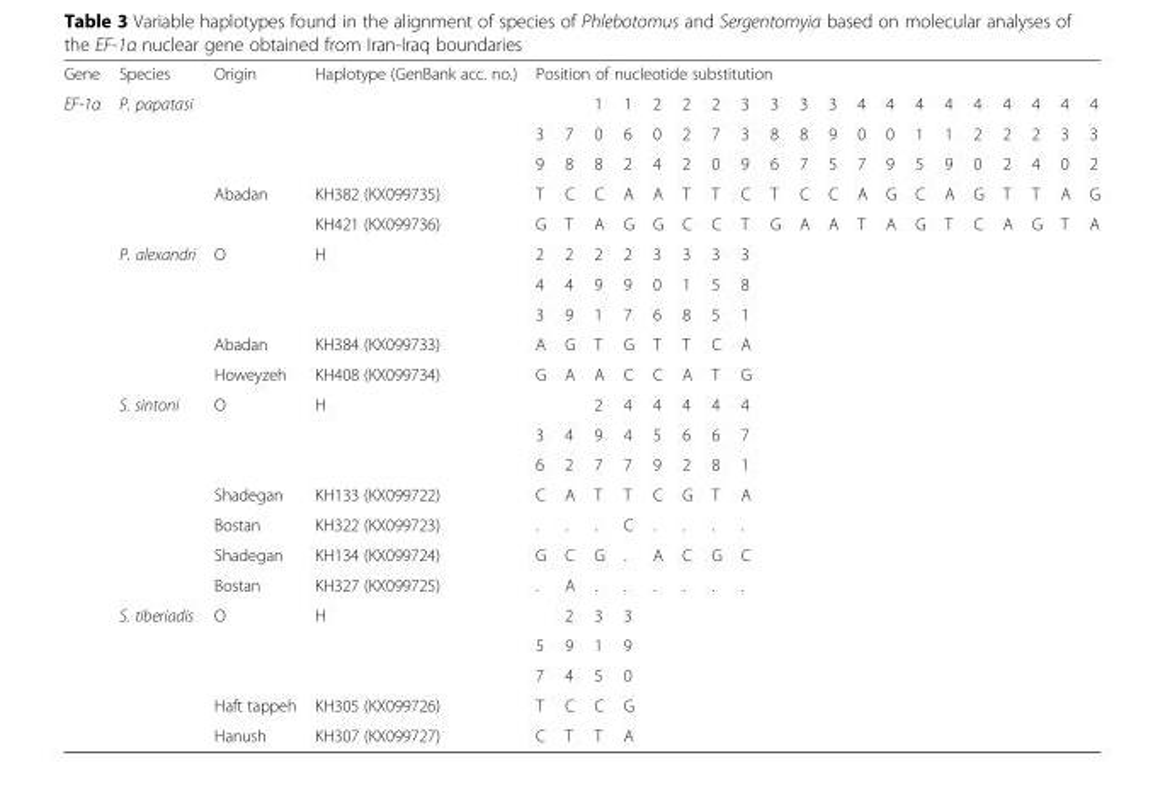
<table><tbody><tr><td>Gene</td><td>Species</td><td rowspan="4">Origin</td><td rowspan="4">Haplotype (GenBank acc. no.)</td><td colspan="20">Position of nucleotide substitution</td></tr><tr><td rowspan="22">EF-1α</td><td rowspan="5">P. papatasi</td><td></td><td></td><td>1</td><td>1</td><td>2</td><td>2</td><td>2</td><td>3</td><td>3</td><td>3</td><td>3</td><td>4</td><td>4</td><td>4</td><td>4</td><td>4</td><td>4</td><td>4</td><td>4</td><td>4</td></tr><tr><td>3</td><td>7</td><td>0</td><td>6</td><td>0</td><td>2</td><td>7</td><td>3</td><td>8</td><td>8</td><td>9</td><td>0</td><td>0</td><td>1</td><td>1</td><td>2</td><td>2</td><td>2</td><td>3</td><td>3</td></tr><tr><td>9</td><td>8</td><td>8</td><td>2</td><td>4</td><td>2</td><td>0</td><td>9</td><td>6</td><td>7</td><td>5</td><td>7</td><td>9</td><td>5</td><td>9</td><td>0</td><td>2</td><td>4</td><td>0</td><td>2</td></tr><tr><td rowspan="2">Abadan</td><td>KH382 (KX099735)</td><td>T</td><td>C</td><td>C</td><td>A</td><td>A</td><td>T</td><td>T</td><td>C</td><td>T</td><td>C</td><td>C</td><td>A</td><td>G</td><td>C</td><td>A</td><td>G</td><td>T</td><td>T</td><td>A</td><td>G</td></tr><tr><td>KH421 (KX099736)</td><td>G</td><td>T</td><td>A</td><td>G</td><td>G</td><td>C</td><td>C</td><td>T</td><td>G</td><td>A</td><td>A</td><td>T</td><td>A</td><td>G</td><td>T</td><td>C</td><td>A</td><td>G</td><td>T</td><td>A</td></tr><tr><td rowspan="5">P. alexandri</td><td rowspan="3">O</td><td rowspan="3">H</td><td>2</td><td>2</td><td>2</td><td>2</td><td>3</td><td>3</td><td>3</td><td>3</td><td></td><td></td><td></td><td></td><td></td><td></td><td></td><td></td><td></td><td></td><td></td><td></td></tr><tr><td>4</td><td>4</td><td>9</td><td>9</td><td>0</td><td>1</td><td>5</td><td>8</td><td></td><td></td><td></td><td></td><td></td><td></td><td></td><td></td><td></td><td></td><td></td><td></td></tr><tr><td>3</td><td>9</td><td>1</td><td>7</td><td>6</td><td>8</td><td>5</td><td>1</td><td></td><td></td><td></td><td></td><td></td><td></td><td></td><td></td><td></td><td></td><td></td><td></td></tr><tr><td>Abadan</td><td>KH384 (KX099733)</td><td>A</td><td>G</td><td>T</td><td>G</td><td>T</td><td>T</td><td>C</td><td>A</td><td></td><td></td><td></td><td></td><td></td><td></td><td></td><td></td><td></td><td></td><td></td><td></td></tr><tr><td>Howeyzeh</td><td>KH408 (KX099734)</td><td>G</td><td>A</td><td>A</td><td>C</td><td>C</td><td>A</td><td>T</td><td>G</td><td></td><td></td><td></td><td></td><td></td><td></td><td></td><td></td><td></td><td></td><td></td><td></td></tr><tr><td rowspan="7">S. sintoni</td><td rowspan="3">O</td><td rowspan="3">H</td><td></td><td></td><td>2</td><td>4</td><td>4</td><td>4</td><td>4</td><td>4</td><td></td><td></td><td></td><td></td><td></td><td></td><td></td><td></td><td></td><td></td><td></td><td></td></tr><tr><td>3</td><td>4</td><td>9</td><td>4</td><td>5</td><td>6</td><td>6</td><td>7</td><td></td><td></td><td></td><td></td><td></td><td></td><td></td><td></td><td></td><td></td><td></td><td></td></tr><tr><td>6</td><td>2</td><td>7</td><td>7</td><td>9</td><td>2</td><td>8</td><td>1</td><td></td><td></td><td></td><td></td><td></td><td></td><td></td><td></td><td></td><td></td><td></td><td></td></tr><tr><td>Shadegan</td><td>KH133 (KX099722)</td><td>C</td><td>A</td><td>T</td><td>T</td><td>C</td><td>G</td><td>T</td><td>A</td><td></td><td></td><td></td><td></td><td></td><td></td><td></td><td></td><td></td><td></td><td></td><td></td></tr><tr><td>Bostan</td><td>KH322 (KX099723)</td><td>.</td><td>.</td><td>.</td><td>C</td><td>.</td><td>.</td><td>.</td><td>.</td><td></td><td></td><td></td><td></td><td></td><td></td><td></td><td></td><td></td><td></td><td></td><td></td></tr><tr><td>Shadegan</td><td>KH134 (KX099724)</td><td>G</td><td>C</td><td>G</td><td>.</td><td>A</td><td>C</td><td>G</td><td>C</td><td></td><td></td><td></td><td></td><td></td><td></td><td></td><td></td><td></td><td></td><td></td><td></td></tr><tr><td>Bostan</td><td>KH327 (KX099725)</td><td>.</td><td>A</td><td>.</td><td>.</td><td>.</td><td>.</td><td>.</td><td>.</td><td></td><td></td><td></td><td></td><td></td><td></td><td></td><td></td><td></td><td></td><td></td><td></td></tr><tr><td rowspan="5">S. tiberiadis</td><td rowspan="3">O</td><td rowspan="3">H</td><td></td><td>2</td><td>3</td><td>3</td><td></td><td></td><td></td><td></td><td></td><td></td><td></td><td></td><td></td><td></td><td></td><td></td><td></td><td></td><td></td><td></td></tr><tr><td>5</td><td>9</td><td>1</td><td>9</td><td></td><td></td><td></td><td></td><td></td><td></td><td></td><td></td><td></td><td></td><td></td><td></td><td></td><td></td><td></td><td></td></tr><tr><td>7</td><td>4</td><td>5</td><td>0</td><td></td><td></td><td></td><td></td><td></td><td></td><td></td><td></td><td></td><td></td><td></td><td></td><td></td><td></td><td></td><td></td></tr><tr><td>Haft tappeh</td><td>KH305 (KX099726)</td><td>T</td><td>C</td><td>C</td><td>G</td><td></td><td></td><td></td><td></td><td></td><td></td><td></td><td></td><td></td><td></td><td></td><td></td><td></td><td></td><td></td><td></td></tr><tr><td>Hanush</td><td>KH307 (KX099727)</td><td>C</td><td>T</td><td>T</td><td>A</td><td></td><td></td><td></td><td></td><td></td><td></td><td></td><td></td><td></td><td></td><td></td><td></td><td></td><td></td><td></td><td></td></tr></tbody></table>